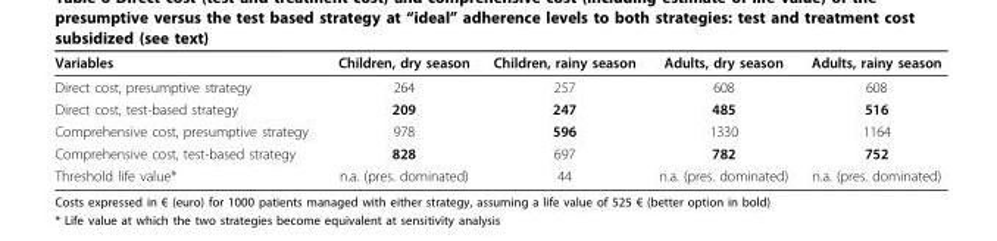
<table><thead><tr><td>Variables</td><td>Children, dry season</td><td>Children, rainy season</td><td>Adults, dry season</td><td>Adults, rainy season</td></tr></thead><tbody><tr><td>Direct cost, presumptive strategy</td><td>264</td><td>257</td><td>608</td><td>608</td></tr><tr><td>Direct cost, test-based strategy</td><td>209</td><td>247</td><td>485</td><td>516</td></tr><tr><td>Comprehensive cost, presumptive strategy</td><td>978</td><td>596</td><td>1330</td><td>1164</td></tr><tr><td>Comprehensive cost, test-based strategy</td><td>828</td><td>697</td><td>782</td><td>752</td></tr><tr><td>Threshold life value*</td><td>n.a. (pres. dominated)</td><td>44</td><td>n.a. (pres. dominated)</td><td>n.a. (pres. dominated)</td></tr></tbody></table>